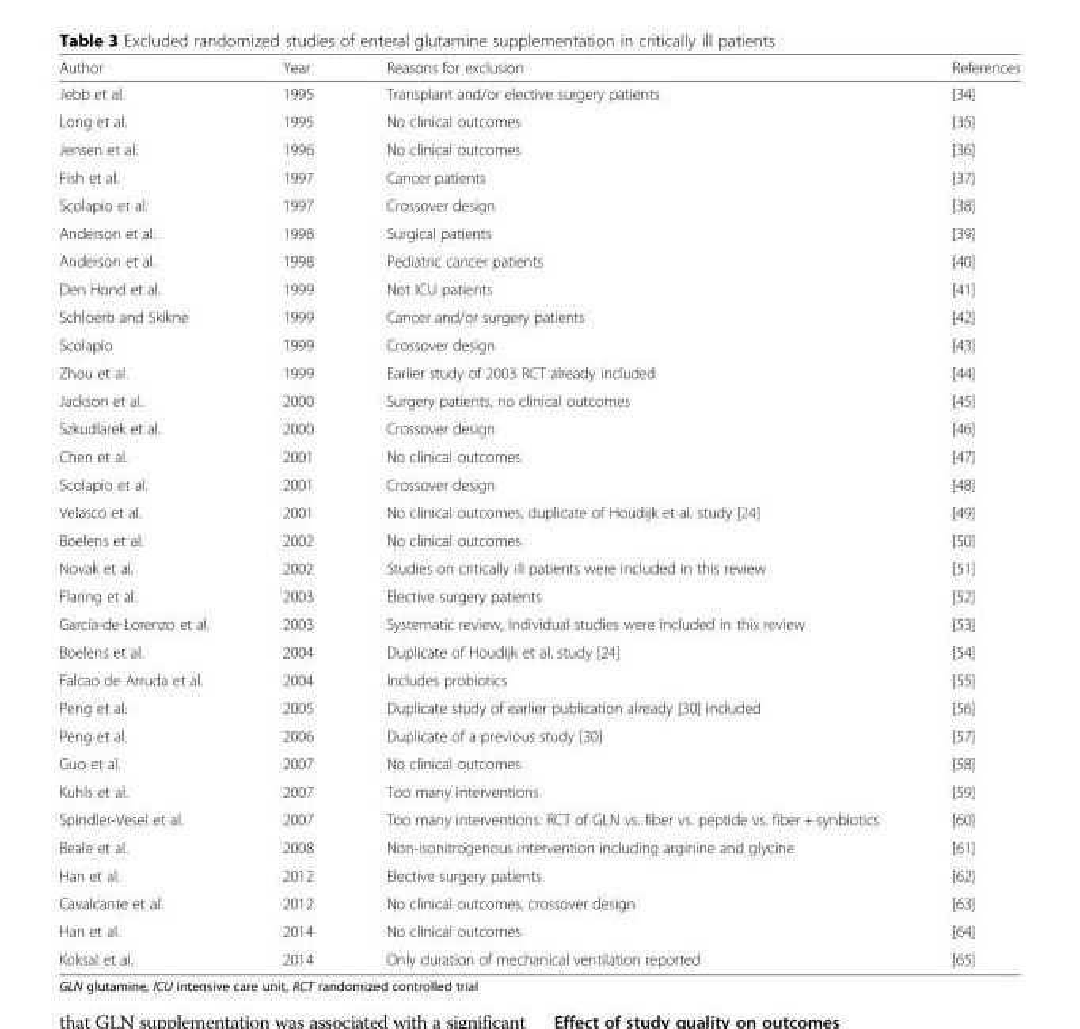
<table><thead><tr><td>Author</td><td>Year</td><td>Reasons for exclusion</td><td>References</td></tr></thead><tbody><tr><td>Jebb et al.</td><td>1995</td><td>Transplant and/or elective surgery patients</td><td>[34]</td></tr><tr><td>Long et al.</td><td>1995</td><td>No clinical outcomes</td><td>[35]</td></tr><tr><td>Jensen et al.</td><td>1996</td><td>No clinical outcomes</td><td>[36]</td></tr><tr><td>Fish et al.</td><td>1997</td><td>Cancer patients</td><td>[37]</td></tr><tr><td>Scolapio et al.</td><td>1997</td><td>Crossover design</td><td>[38]</td></tr><tr><td>Anderson et al.</td><td>1998</td><td>Surgical patients</td><td>[39]</td></tr><tr><td>Anderson et al.</td><td>1998</td><td>Pediatric cancer patients</td><td>[40]</td></tr><tr><td>Den Hond et al.</td><td>1999</td><td>Not ICU patients</td><td>[41]</td></tr><tr><td>Schloerb and Skikne</td><td>1999</td><td>Cancer and/or surgery patients</td><td>[42]</td></tr><tr><td>Scolapio</td><td>1999</td><td>Crossover design</td><td>[43]</td></tr><tr><td>Zhou et al.</td><td>1999</td><td>Earlier study of 2003 RCT already included</td><td>[44]</td></tr><tr><td>Jackson et al.</td><td>2000</td><td>Surgery patients, no clinical outcomes</td><td>[45]</td></tr><tr><td>Szkudlarek et al.</td><td>2000</td><td>Crossover design</td><td>[46]</td></tr><tr><td>Chen et al.</td><td>2001</td><td>No clinical outcomes</td><td>[47]</td></tr><tr><td>Scolapio et al.</td><td>2001</td><td>Crossover design</td><td>[48]</td></tr><tr><td>Velasco et al.</td><td>2001</td><td>No clinical outcomes, duplicate of Houdijk et al. study [24]</td><td>[49]</td></tr><tr><td>Boelens et al.</td><td>2002</td><td>No clinical outcomes</td><td>[50]</td></tr><tr><td>Novak et al.</td><td>2002</td><td>Studies on critically ill patients were included in this review</td><td>[51]</td></tr><tr><td>Flaring et al.</td><td>2003</td><td>Elective surgery patients</td><td>[52]</td></tr><tr><td>García-de-Lorenzo et al.</td><td>2003</td><td>Systematic review, Individual studies were included in this review</td><td>[53]</td></tr><tr><td>Boelens et al.</td><td>2004</td><td>Duplicate of Houdijk et al. study [24]</td><td>[54]</td></tr><tr><td>Falcao de Arruda et al.</td><td>2004</td><td>Includes probiotics</td><td>[55]</td></tr><tr><td>Peng et al.</td><td>2005</td><td>Duplicate study of earlier publication already [30] included</td><td>[56]</td></tr><tr><td>Peng et al.</td><td>2006</td><td>Duplicate of a previous study [30]</td><td>[57]</td></tr><tr><td>Guo et al.</td><td>2007</td><td>No clinical outcomes</td><td>[58]</td></tr><tr><td>Kuhls et al.</td><td>2007</td><td>Too many interventions</td><td>[59]</td></tr><tr><td>Spindler-Vesel et al.</td><td>2007</td><td>Too many interventions: RCT of GLN vs. fiber vs. peptide vs. fiber + synbiotics</td><td>[60]</td></tr><tr><td>Beale et al.</td><td>2008</td><td>Non-isonitrogenous intervention including arginine and glycine</td><td>[61]</td></tr><tr><td>Han et al.</td><td>2012</td><td>Elective surgery patients</td><td>[62]</td></tr><tr><td>Cavalcante et al.</td><td>2012</td><td>No clinical outcomes, crossover design</td><td>[63]</td></tr><tr><td>Han et al.</td><td>2014</td><td>No clinical outcomes</td><td>[64]</td></tr><tr><td>Koksal et al.</td><td>2014</td><td>Only duration of mechanical ventilation reported</td><td>[65]</td></tr></tbody></table>